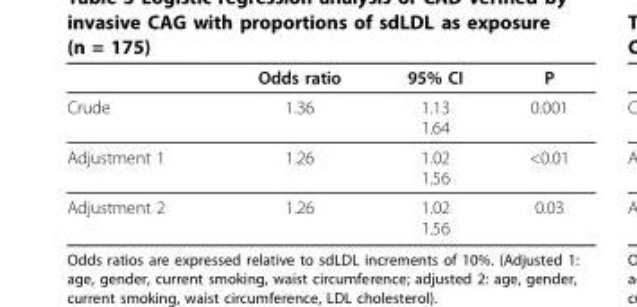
<table><thead><tr><td></td><td>Odds ratio</td><td>95% CI</td><td>P</td></tr></thead><tbody><tr><td>Crude</td><td>1.36</td><td>1.13 1.64</td><td>0.001</td></tr><tr><td>Adjustment 1</td><td>1.26</td><td>1.02 1.56</td><td>&lt;0.01</td></tr><tr><td>Adjustment 2</td><td>1.26</td><td>1.02 1.56</td><td>0.03</td></tr></tbody></table>